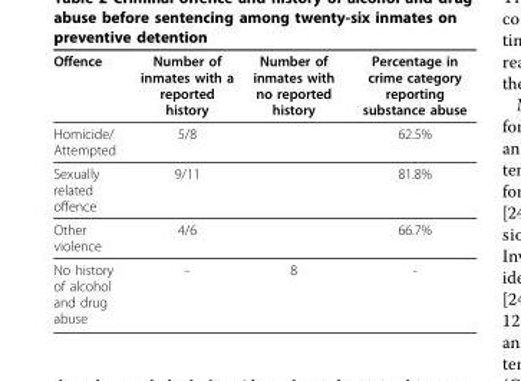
<table><thead><tr><td>Offence</td><td>Number of inmates with a reported history</td><td>Number of inmates with no reported history</td><td>Percentage in crime category reporting substance abuse</td></tr></thead><tbody><tr><td>Homicide/ Attempted</td><td>5/8</td><td></td><td>62.5%</td></tr><tr><td>Sexually related offence</td><td>9/11</td><td></td><td>81.8%</td></tr><tr><td>Other violence</td><td>4/6</td><td></td><td>66.7%</td></tr><tr><td>No history of alcohol and drug abuse</td><td>-</td><td>8</td><td>-</td></tr></tbody></table>